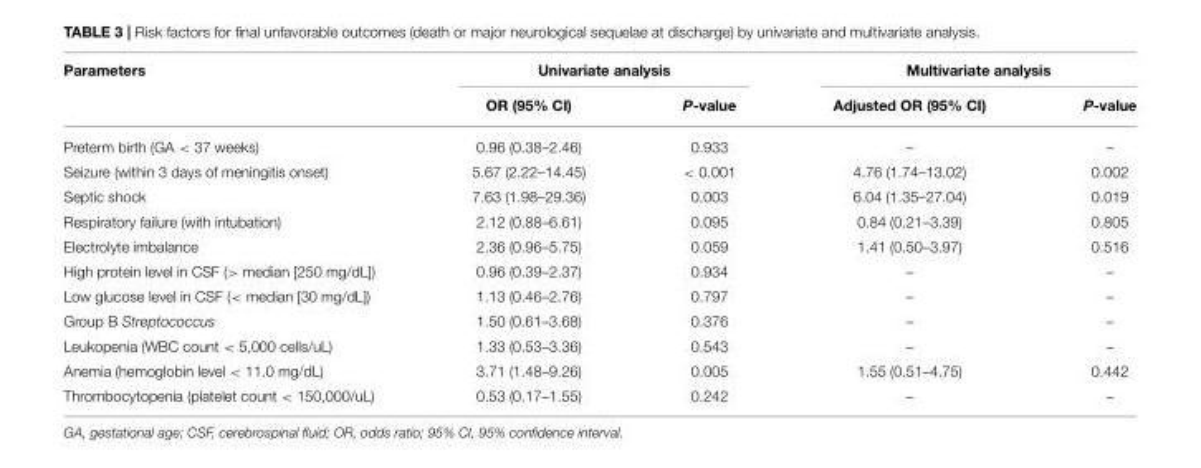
<table><thead><tr><td rowspan="2">Parameters</td><td colspan="2">Univariate analysis</td><td colspan="2">Multivariate analysis</td></tr><tr><td>OR (95% CI)</td><td>P-value</td><td>Adjusted OR (95% CI)</td><td>P-value</td></tr></thead><tbody><tr><td>Preterm birth (GA &lt; 37 weeks)</td><td>0.96 (0.38–2.46)</td><td>0.933</td><td>–</td><td>–</td></tr><tr><td>Seizure (within 3 days of meningitis onset)</td><td>5.67 (2.22–14.45)</td><td>&lt; 0.001</td><td>4.76 (1.74–13.02)</td><td>0.002</td></tr><tr><td>Septic shock</td><td>7.63 (1.98–29.36)</td><td>0.003</td><td>6.04 (1.35–27.04)</td><td>0.019</td></tr><tr><td>Respiratory failure (with intubation)</td><td>2.12 (0.88–6.61)</td><td>0.095</td><td>0.84 (0.21–3.39)</td><td>0.805</td></tr><tr><td>Electrolyte imbalance</td><td>2.36 (0.96–5.75)</td><td>0.059</td><td>1.41 (0.50–3.97)</td><td>0.516</td></tr><tr><td>High protein level in CSF (&gt; median [250 mg/dL])</td><td>0.96 (0.39–2.37)</td><td>0.934</td><td>–</td><td>–</td></tr><tr><td>Low glucose level in CSF (&lt; median [30 mg/dL])</td><td>1.13 (0.46–2.76)</td><td>0.797</td><td>–</td><td>–</td></tr><tr><td>Group B Streptococcus</td><td>1.50 (0.61–3.68)</td><td>0.376</td><td>–</td><td>–</td></tr><tr><td>Leukopenia (WBC count &lt; 5,000 cells/uL)</td><td>1.33 (0.53–3.36)</td><td>0.543</td><td>–</td><td>–</td></tr><tr><td>Anemia (hemoglobin level &lt; 11.0 mg/dL)</td><td>3.71 (1.48–9.26)</td><td>0.005</td><td>1.55 (0.51–4.75)</td><td>0.442</td></tr><tr><td>Thrombocytopenia (platelet count &lt; 150,000/uL)</td><td>0.53 (0.17–1.55)</td><td>0.242</td><td>–</td><td>–</td></tr></tbody></table>